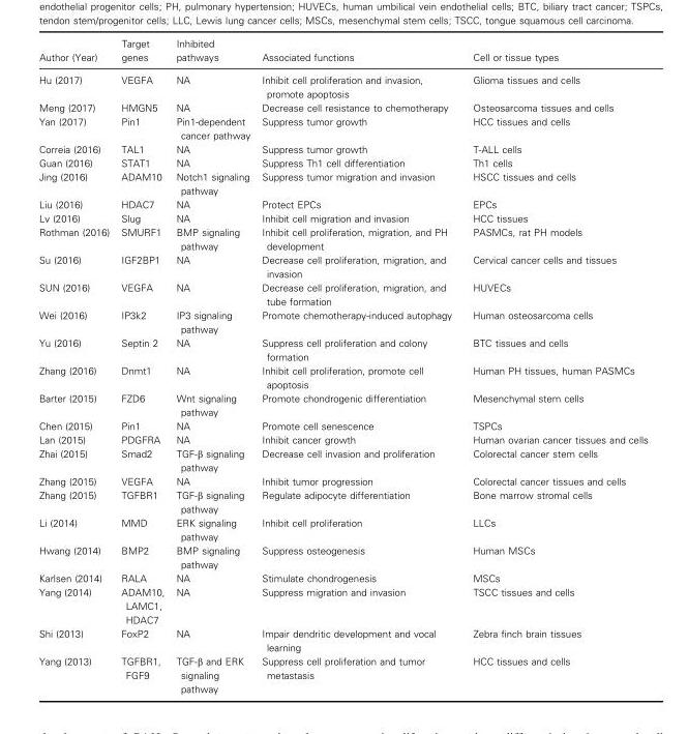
<table><thead><tr><td>Author (Year)</td><td>Target genes</td><td>Inhibited pathways</td><td>Associated functions</td><td>Cell or tissue types</td></tr></thead><tbody><tr><td>Hu (2017)</td><td>VEGFA</td><td>NA</td><td>Inhibit cell proliferation and invasion, promote apoptosis</td><td>Glioma tissues and cells</td></tr><tr><td>Meng (2017)</td><td>HMGN5</td><td>NA</td><td>Decrease cell resistance to chemotherapy</td><td>Osteosarcoma tissues and cells</td></tr><tr><td>Yan (2017)</td><td>Pin1</td><td>Pin1-dependent cancer pathway</td><td>Suppress tumor growth</td><td>HCC tissues and cells</td></tr><tr><td>Correia (2016)</td><td>TAL1</td><td>NA</td><td>Suppress tumor growth</td><td>T-ALL cells</td></tr><tr><td>Guan (2016)</td><td>STAT1</td><td>NA</td><td>Suppress Th1 cell differentiation</td><td>Th1 cells</td></tr><tr><td>Jing (2016)</td><td>ADAM10</td><td>Notch1 signaling pathway</td><td>Suppress tumor migration and invasion</td><td>HSCC tissues and cells</td></tr><tr><td>Liu (2016)</td><td>HDAC7</td><td>NA</td><td>Protect EPCs</td><td>EPCs</td></tr><tr><td>Lv (2016)</td><td>Slug</td><td>NA</td><td>Inhibit cell migration and invasion</td><td>HCC tissues</td></tr><tr><td>Rothman (2016)</td><td>SMURF1</td><td>BMP signaling pathway</td><td>Inhibit cell proliferation, migration, and PH development</td><td>PASMCs, rat PH models</td></tr><tr><td>Su (2016)</td><td>IGF2BP1</td><td>NA</td><td>Decrease cell proliferation, migration, and invasion</td><td>Cervical cancer cells and tissues</td></tr><tr><td>SUN (2016)</td><td>VEGFA</td><td>NA</td><td>Decrease cell proliferation, migration, and tube formation</td><td>HUVECs</td></tr><tr><td>Wei (2016)</td><td>IP3k2</td><td>IP3 signaling pathway</td><td>Promote chemotherapy-induced autophagy</td><td>Human osteosarcoma cells</td></tr><tr><td>Yu (2016)</td><td>Septin 2</td><td>NA</td><td>Suppress cell proliferation and colony formation</td><td>BTC tissues and cells</td></tr><tr><td>Zhang (2016)</td><td>Dnmt1</td><td>NA</td><td>Inhibit cell proliferation, promote cell apoptosis</td><td>Human PH tissues, human PASMCs</td></tr><tr><td>Barter (2015)</td><td>FZD6</td><td>Wnt signaling pathway</td><td>Promote chondrogenic differentiation</td><td>Mesenchymal stem cells</td></tr><tr><td>Chen (2015)</td><td>Pin1</td><td>NA</td><td>Promote cell senescence</td><td>TSPCs</td></tr><tr><td>Lan (2015)</td><td>PDGFRA</td><td>NA</td><td>Inhibit cancer growth</td><td>Human ovarian cancer tissues and cells</td></tr><tr><td>Zhai (2015)</td><td>Smad2</td><td>TGF-β signaling pathway</td><td>Decrease cell invasion and proliferation</td><td>Colorectal cancer stem cells</td></tr><tr><td>Zhang (2015)</td><td>VEGFA</td><td>NA</td><td>Inhibit tumor progression</td><td>Colorectal cancer tissues and cells</td></tr><tr><td>Zhang (2015)</td><td>TGFBR1</td><td>TGF-β signaling pathway</td><td>Regulate adipocyte differentiation</td><td>Bone marrow stromal cells</td></tr><tr><td>Li (2014)</td><td>MMD</td><td>ERK signaling pathway</td><td>Inhibit cell proliferation</td><td>LLCs</td></tr><tr><td>Hwang (2014)</td><td>BMP2</td><td>BMP signaling pathway</td><td>Suppress osteogenesis</td><td>Human MSCs</td></tr><tr><td>Karlsen (2014)</td><td>RALA</td><td>NA</td><td>Stimulate chondrogenesis</td><td>MSCs</td></tr><tr><td>Yang (2014)</td><td>ADAM10, LAMC1, HDAC7</td><td>NA</td><td>Suppress migration and invasion</td><td>TSCC tissues and cells</td></tr><tr><td>Shi (2013)</td><td>FoxP2</td><td>NA</td><td>Impair dendritic development and vocal learning</td><td>Zebra finch brain tissues</td></tr><tr><td>Yang (2013)</td><td>TGFBR1, FGF9</td><td>TGF-β and ERK signaling pathway</td><td>Suppress cell proliferation and tumor metastasis</td><td>HCC tissues and cells</td></tr></tbody></table>